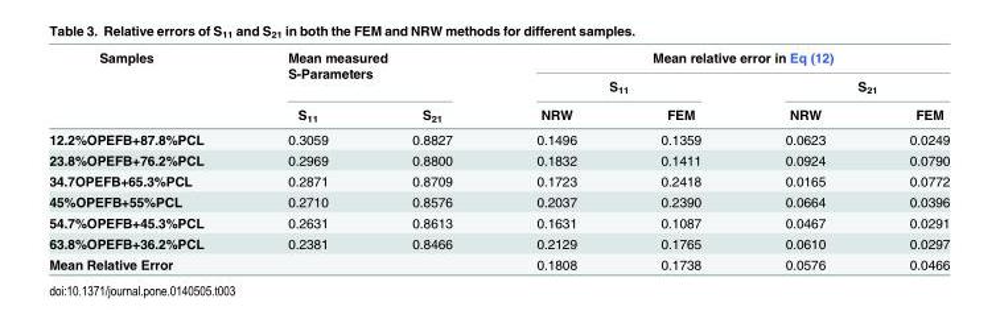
<table><thead><tr><td rowspan="3">Samples</td><td rowspan="2" colspan="2">Mean measured S-Parameters</td><td colspan="4">Mean relative error in Eq (12)</td></tr><tr><td colspan="2">S<sub>11</sub></td><td colspan="2">S<sub>21</sub></td></tr><tr><td>S<sub>11</sub></td><td>S<sub>21</sub></td><td>NRW</td><td>FEM</td><td>NRW</td><td>FEM</td></tr></thead><tbody><tr><td>12.2%OPEFB+87.8%PCL</td><td>0.3059</td><td>0.8827</td><td>0.1496</td><td>0.1359</td><td>0.0623</td><td>0.0249</td></tr><tr><td>23.8%OPEFB+76.2%PCL</td><td>0.2969</td><td>0.8800</td><td>0.1832</td><td>0.1411</td><td>0.0924</td><td>0.0790</td></tr><tr><td>34.7OPEFB+65.3%PCL</td><td>0.2871</td><td>0.8709</td><td>0.1723</td><td>0.2418</td><td>0.0165</td><td>0.0772</td></tr><tr><td>45%OPEFB+55%PCL</td><td>0.2710</td><td>0.8576</td><td>0.2037</td><td>0.2390</td><td>0.0664</td><td>0.0396</td></tr><tr><td>54.7%OPEFB+45.3%PCL</td><td>0.2631</td><td>0.8613</td><td>0.1631</td><td>0.1087</td><td>0.0467</td><td>0.0291</td></tr><tr><td>63.8%OPEFB+36.2%PCL</td><td>0.2381</td><td>0.8466</td><td>0.2129</td><td>0.1765</td><td>0.0610</td><td>0.0297</td></tr><tr><td>Mean Relative Error</td><td></td><td></td><td>0.1808</td><td>0.1738</td><td>0.0576</td><td>0.0466</td></tr></tbody></table>